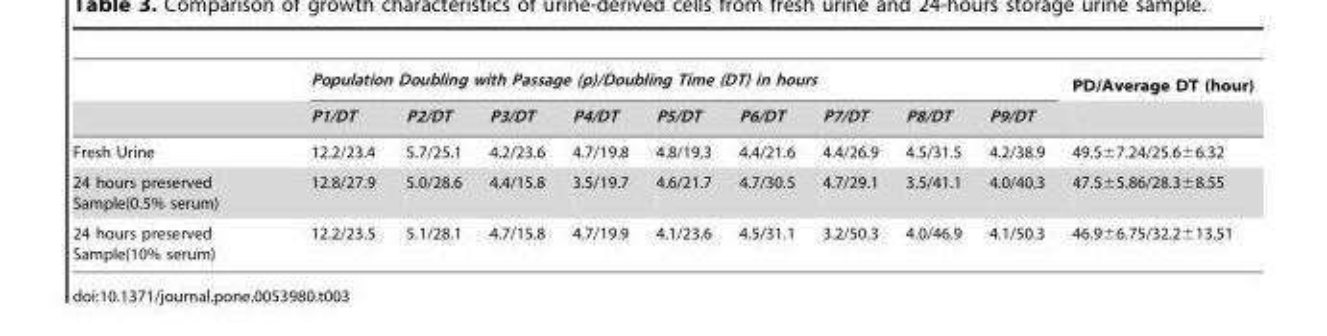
<table><thead><tr><td rowspan="2"></td><td colspan="9">Population Doubling with Passage (p)/Doubling Time (DT) in hours</td><td rowspan="2">PD/Average DT (hour)</td></tr><tr><td>P1/DT</td><td>P2/DT</td><td>P3/DT</td><td>P4/DT</td><td>P5/DT</td><td>P6/DT</td><td>P7/DT</td><td>P8/DT</td><td>P9/DT</td></tr></thead><tbody><tr><td>Fresh Urine</td><td>12.2/23.4</td><td>5.7/25.1</td><td>4.2/23.6</td><td>4.7/19.8</td><td>4.8/19.3</td><td>4.4/21.6</td><td>4.4/26.9</td><td>4.5/31.5</td><td>4.2/38.9</td><td>49.5±7.24/25.6±6.32</td></tr><tr><td>24 hours preserved Sample(0.5% serum)</td><td>12.8/27.9</td><td>5.0/28.6</td><td>4.4/15.8</td><td>3.5/19.7</td><td>4.6/21.7</td><td>4.7/30.5</td><td>4.7/29.1</td><td>3.5/41.1</td><td>4.0/40.3</td><td>47.5±5.86/28.3±8.55</td></tr><tr><td>24 hours preserved Sample(10% serum)</td><td>12.2/23.5</td><td>5.1/28.1</td><td>4.7/15.8</td><td>4.7/19.9</td><td>4.1/23.6</td><td>4.5/31.1</td><td>3.2/50.3</td><td>4.0/46.9</td><td>4.1/50.3</td><td>46.9±6.75/32.2±13.51</td></tr></tbody></table>